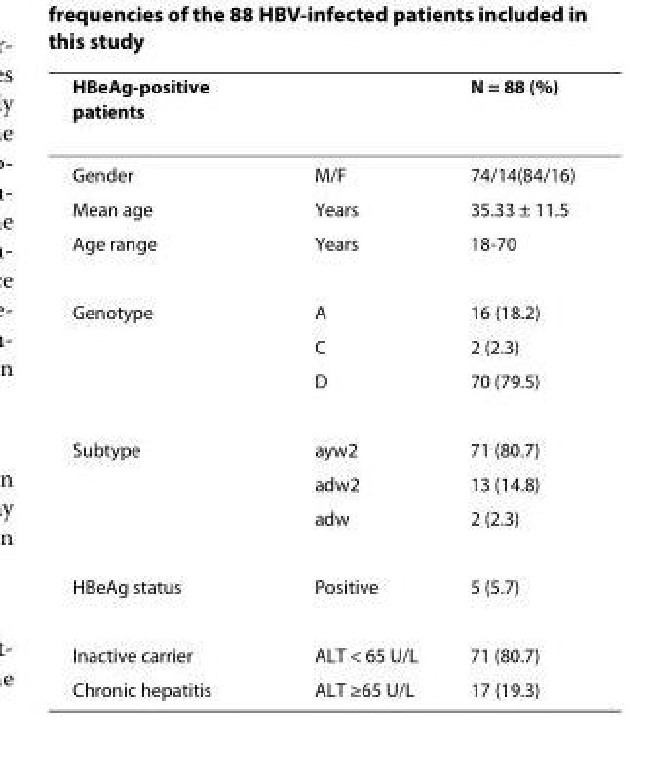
<table><thead><tr><td>HBeAg-positive patients</td><td></td><td>N = 88 (%)</td></tr></thead><tbody><tr><td>Gender</td><td>M/F</td><td>74/14(84/16)</td></tr><tr><td>Mean age</td><td>Years</td><td>35.33 ± 11.5</td></tr><tr><td>Age range</td><td>Years</td><td>18-70</td></tr><tr><td rowspan="3">Genotype</td><td>A</td><td>16 (18.2)</td></tr><tr><td>C</td><td>2 (2.3)</td></tr><tr><td>D</td><td>70 (79.5)</td></tr><tr><td rowspan="3">Subtype</td><td>ayw2</td><td>71 (80.7)</td></tr><tr><td>adw2</td><td>13 (14.8)</td></tr><tr><td>adw</td><td>2 (2.3)</td></tr><tr><td>HBeAg status</td><td>Positive</td><td>5 (5.7)</td></tr><tr><td>Inactive carrier</td><td>ALT &lt; 65 U/L</td><td>71 (80.7)</td></tr><tr><td>Chronic hepatitis</td><td>ALT ≥65 U/L</td><td>17 (19.3)</td></tr></tbody></table>